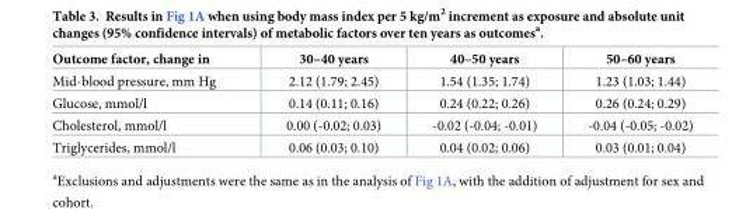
<table><thead><tr><td>Outcome factor, change in</td><td>30–40 years</td><td>40–50 years</td><td>50–60 years</td></tr></thead><tbody><tr><td>Mid-blood pressure, mm Hg</td><td>2.12 (1.79; 2.45)</td><td>1.54 (1.35; 1.74)</td><td>1.23 (1.03; 1.44)</td></tr><tr><td>Glucose, mmol/l</td><td>0.14 (0.11; 0.16)</td><td>0.24 (0.22; 0.26)</td><td>0.26 (0.24; 0.29)</td></tr><tr><td>Cholesterol, mmol/l</td><td>0.00 (-0.02; 0.03)</td><td>-0.02 (-0.04; -0.01)</td><td>-0.04 (-0.05; -0.02)</td></tr><tr><td>Triglycerides, mmol/l</td><td>0.06 (0.03; 0.10)</td><td>0.04 (0.02; 0.06)</td><td>0.03 (0.01; 0.04)</td></tr></tbody></table>